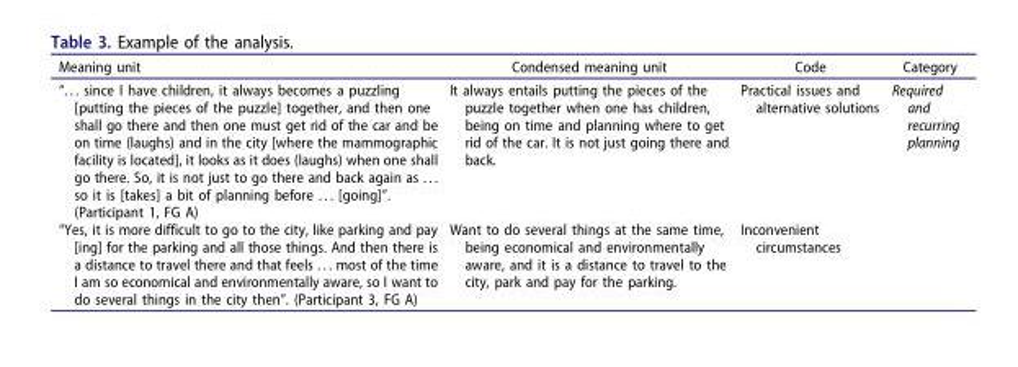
<table><thead><tr><td>Meaning unit</td><td>Condensed meaning unit</td><td>Code</td><td>Category</td></tr></thead><tbody><tr><td>“. . . since I have children, it always becomes a puzzling [putting the pieces of the puzzle] together, and then one shall go there and then one must get rid of the car and be on time (laughs) and in the city [where the mammographic facility is located], it looks as it does (laughs) when one shall go there. So, it is not just to go there and back again as . . . so it is [takes] a bit of planning before . . . [going]”. (Participant 1, FG A)</td><td>It always entails putting the pieces of the puzzle together when one has children, being on time and planning where to get rid of the car. It is not just going there and back.</td><td>Practical issues and alternative solutions</td><td rowspan="2">Required and recurring planning</td></tr><tr><td>“Yes, it is more difficult to go to the city, like parking and pay [ing] for the parking and all those things. And then there is a distance to travel there and that feels . . . most of the time I am so economical and environmentally aware, so I want to do several things in the city then”. (Participant 3, FG A)</td><td>Want to do several things at the same time, being economical and environmentally aware, and it is a distance to travel to the city, park and pay for the parking.</td><td>Inconvenient circumstances</td></tr></tbody></table>